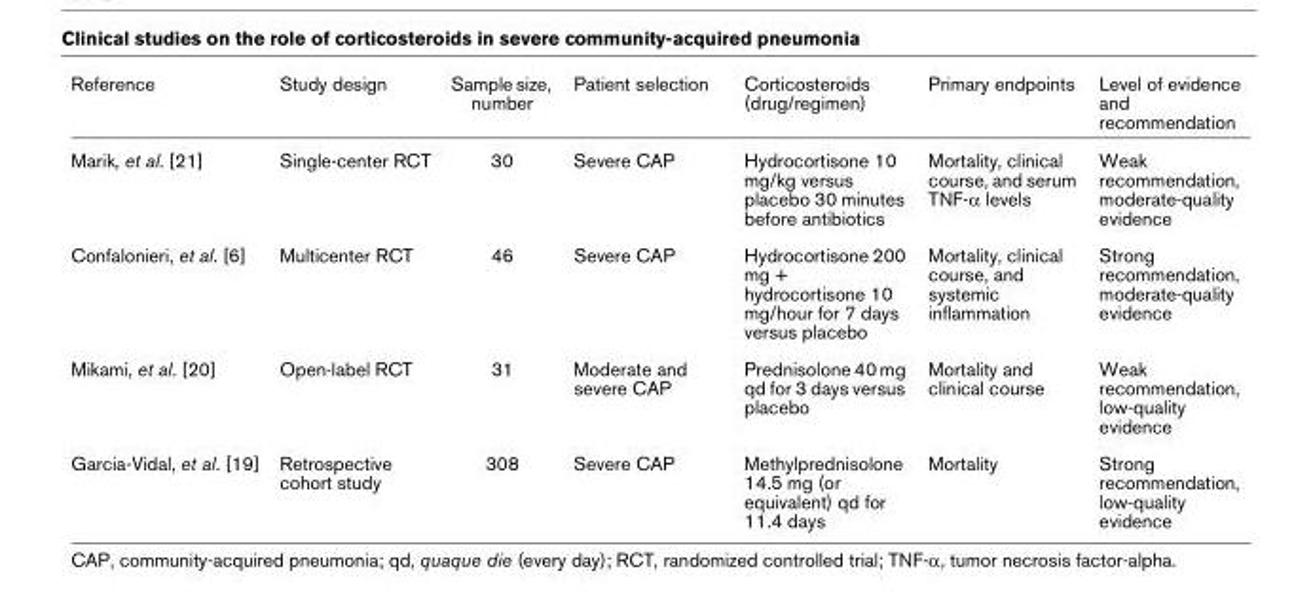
<table><thead><tr><td>Reference</td><td>Study design</td><td>Sample size, number</td><td>Patient selection</td><td>Corticosteroids (drug/regimen)</td><td>Primary endpoints</td><td>Level of evidence and recommendation</td></tr></thead><tbody><tr><td>Marik, et al. [21]</td><td>Single-center RCT</td><td>30</td><td>Severe CAP</td><td>Hydrocortisone 10 mg/kg versus placebo 30 minutes before antibiotics</td><td>Mortality, clinical course, and serum TNF-α levels</td><td>Weak recommendation, moderate-quality evidence</td></tr><tr><td>Confalonieri, et al. [6]</td><td>Multicenter RCT</td><td>46</td><td>Severe CAP</td><td>Hydrocortisone 200 mg + hydrocortisone 10 mg/hour for 7 days versus placebo</td><td>Mortality, clinical course, and systemic inflammation</td><td>Strong recommendation, moderate-quality evidence</td></tr><tr><td>Mikami, et al. [20]</td><td>Open-label RCT</td><td>31</td><td>Moderate and severe CAP</td><td>Prednisolone 40 mg qd for 3 days versus placebo</td><td>Mortality and clinical course</td><td>Weak recommendation, low-quality evidence</td></tr><tr><td>Garcia-Vidal, et al. [19]</td><td>Retrospective cohort study</td><td>308</td><td>Severe CAP</td><td>Methylprednisolone 14.5 mg (or equivalent) qd for 11.4 days</td><td>Mortality</td><td>Strong recommendation, low-quality evidence</td></tr></tbody></table>